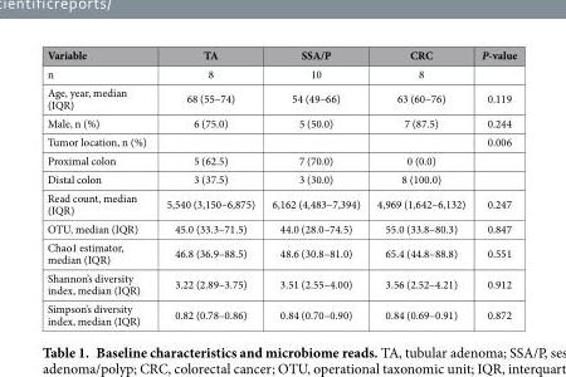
<table><thead><tr><td>Variable</td><td>TA</td><td>SSA/P</td><td>CRC</td><td>P-value</td></tr></thead><tbody><tr><td>n</td><td>8</td><td>10</td><td>8</td><td></td></tr><tr><td>Age, year, median (IQR)</td><td>68 (55–74)</td><td>54 (49–66)</td><td>63 (60–76)</td><td>0.119</td></tr><tr><td>Male, n (%)</td><td>6 (75.0)</td><td>5 (50.0)</td><td>7 (87.5)</td><td>0.244</td></tr><tr><td>Tumor location, n (%)</td><td></td><td></td><td></td><td>0.006</td></tr><tr><td>Proximal colon</td><td>5 (62.5)</td><td>7 (70.0)</td><td>0 (0.0)</td><td></td></tr><tr><td>Distal colon</td><td>3 (37.5)</td><td>3 (30.0)</td><td>8 (100.0)</td><td></td></tr><tr><td>Read count, median (IQR)</td><td>5,540 (3,150–6,875)</td><td>6,162 (4,483–7,394)</td><td>4,969 (1,642–6,132)</td><td>0.247</td></tr><tr><td>OTU, median (IQR)</td><td>45.0 (33.3–71.5)</td><td>44.0 (28.0–74.5)</td><td>55.0 (33.8–80.3)</td><td>0.847</td></tr><tr><td>Chao1 estimator, median (IQR)</td><td>46.8 (36.9–88.5)</td><td>48.6 (30.8–81.0)</td><td>65.4 (44.8–88.8)</td><td>0.551</td></tr><tr><td>Shannon’s diversity index, median (IQR)</td><td>3.22 (2.89–3.75)</td><td>3.51 (2.55–4.00)</td><td>3.56 (2.52–4.21)</td><td>0.912</td></tr><tr><td>Simpson’s diversity index, median (IQR)</td><td>0.82 (0.78–0.86)</td><td>0.84 (0.70–0.90)</td><td>0.84 (0.69–0.91)</td><td>0.872</td></tr></tbody></table>